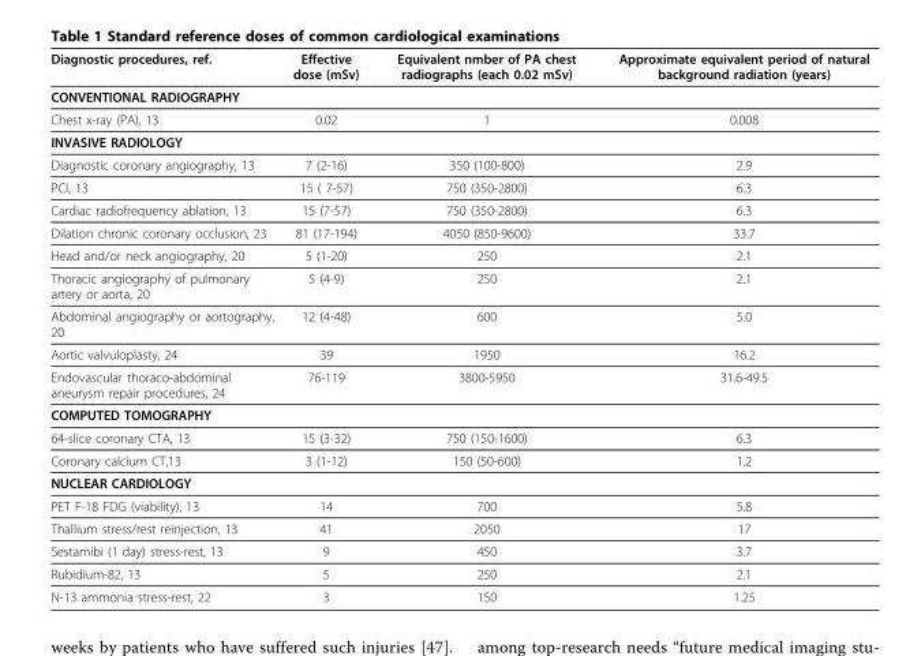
<table><thead><tr><td>Diagnostic procedures, ref.</td><td>Effective dose (mSv)</td><td>Equivalent nmber of PA chest radiographs (each 0.02 mSv)</td><td>Approximate equivalent period of natural background radiation (years)</td></tr></thead><tbody><tr><td colspan="4">CONVENTIONAL RADIOGRAPHY</td></tr><tr><td>Chest x-ray (PA), 13</td><td>0.02</td><td>1</td><td>0.008</td></tr><tr><td colspan="4">INVASIVE RADIOLOGY</td></tr><tr><td>Diagnostic coronary angiography, 13</td><td>7 (2-16)</td><td>350 (100-800)</td><td>2.9</td></tr><tr><td>PCI, 13</td><td>15 ( 7-57)</td><td>750 (350-2800)</td><td>6.3</td></tr><tr><td>Cardiac radiofrequency ablation, 13</td><td>15 (7-57)</td><td>750 (350-2800)</td><td>6.3</td></tr><tr><td>Dilation chronic coronary occlusion, 23</td><td>81 (17-194)</td><td>4050 (850-9600)</td><td>33.7</td></tr><tr><td>Head and/or neck angiography, 20</td><td>5 (1-20)</td><td>250</td><td>2.1</td></tr><tr><td>Thoracic angiography of pulmonary artery or aorta, 20</td><td>5 (4-9)</td><td>250</td><td>2.1</td></tr><tr><td>Abdominal angiography or aortography, 20</td><td>12 (4-48)</td><td>600</td><td>5.0</td></tr><tr><td>Aortic valvuloplasty, 24</td><td>39</td><td>1950</td><td>16.2</td></tr><tr><td>Endovascular thoraco-abdominal aneurysm repair procedures, 24</td><td>76-119</td><td>3800-5950</td><td>31.6-49.5</td></tr><tr><td colspan="4">COMPUTED TOMOGRAPHY</td></tr><tr><td>64-slice coronary CTA, 13</td><td>15 (3-32)</td><td>750 (150-1600)</td><td>6.3</td></tr><tr><td>Coronary calcium CT,13</td><td>3 (1-12)</td><td>150 (50-600)</td><td>1.2</td></tr><tr><td colspan="4">NUCLEAR CARDIOLOGY</td></tr><tr><td>PET F-18 FDG (viability), 13</td><td>14</td><td>700</td><td>5.8</td></tr><tr><td>Thallium stress/rest reinjection, 13</td><td>41</td><td>2050</td><td>17</td></tr><tr><td>Sestamibi (1 day) stress-rest, 13</td><td>9</td><td>450</td><td>3.7</td></tr><tr><td>Rubidium-82, 13</td><td>5</td><td>250</td><td>2.1</td></tr><tr><td>N-13 ammonia stress-rest, 22</td><td>3</td><td>150</td><td>1.25</td></tr></tbody></table>